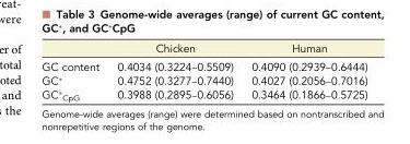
<table><thead><tr><td></td><td>Chicken</td><td>Human</td></tr></thead><tbody><tr><td>GC content</td><td>0.4034 (0.3224–0.5509)</td><td>0.4090 (0.2939–0.6444)</td></tr><tr><td>GC*</td><td>0.4752 (0.3277–0.7440)</td><td>0.4027 (0.2056–0.7016)</td></tr><tr><td>GC*<sub>CpG</sub></td><td>0.3988 (0.2895–0.6056)</td><td>0.3464 (0.1866–0.5725)</td></tr></tbody></table>